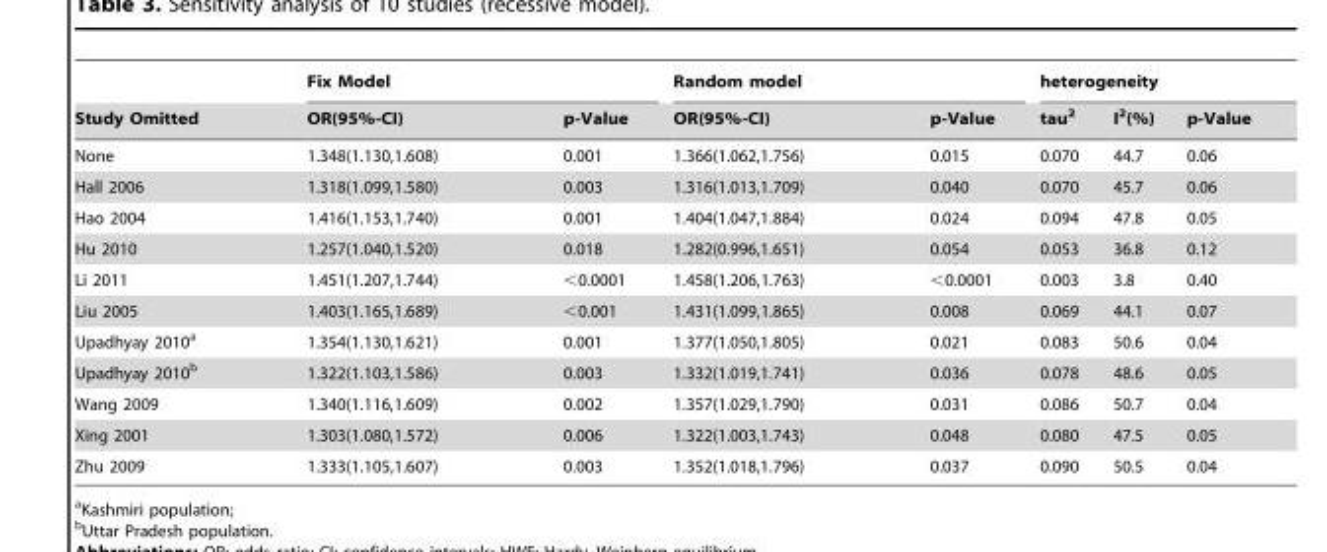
<table><thead><tr><td rowspan="2">Study Omitted</td><td colspan="2">Fix Model</td><td colspan="2">Random model</td><td colspan="3">heterogeneity</td></tr><tr><td>OR(95%-CI)</td><td>p-Value</td><td>OR(95%-CI)</td><td>p-Value</td><td>tau<sup>2</sup></td><td>I<sup>2</sup>(%)</td><td>p-Value</td></tr></thead><tbody><tr><td>None</td><td>1.348(1.130,1.608)</td><td>0.001</td><td>1.366(1.062,1.756)</td><td>0.015</td><td>0.070</td><td>44.7</td><td>0.06</td></tr><tr><td>Hall 2006</td><td>1.318(1.099,1.580)</td><td>0.003</td><td>1.316(1.013,1.709)</td><td>0.040</td><td>0.070</td><td>45.7</td><td>0.06</td></tr><tr><td>Hao 2004</td><td>1.416(1.153,1.740)</td><td>0.001</td><td>1.404(1.047,1.884)</td><td>0.024</td><td>0.094</td><td>47.8</td><td>0.05</td></tr><tr><td>Hu 2010</td><td>1.257(1.040,1.520)</td><td>0.018</td><td>1.282(0.996,1.651)</td><td>0.054</td><td>0.053</td><td>36.8</td><td>0.12</td></tr><tr><td>Li 2011</td><td>1.451(1.207,1.744)</td><td>&lt;0.0001</td><td>1.458(1.206,1.763)</td><td>&lt;0.0001</td><td>0.003</td><td>3.8</td><td>0.40</td></tr><tr><td>Liu 2005</td><td>1.403(1.165,1.689)</td><td>&lt;0.001</td><td>1.431(1.099,1.865)</td><td>0.008</td><td>0.069</td><td>44.1</td><td>0.07</td></tr><tr><td>Upadhyay 2010<sup>a</sup></td><td>1.354(1.130,1.621)</td><td>0.001</td><td>1.377(1.050,1.805)</td><td>0.021</td><td>0.083</td><td>50.6</td><td>0.04</td></tr><tr><td>Upadhyay 2010<sup>b</sup></td><td>1.322(1.103,1.586)</td><td>0.003</td><td>1.332(1.019,1.741)</td><td>0.036</td><td>0.078</td><td>48.6</td><td>0.05</td></tr><tr><td>Wang 2009</td><td>1.340(1.116,1.609)</td><td>0.002</td><td>1.357(1.029,1.790)</td><td>0.031</td><td>0.086</td><td>50.7</td><td>0.04</td></tr><tr><td>Xing 2001</td><td>1.303(1.080,1.572)</td><td>0.006</td><td>1.322(1.003,1.743)</td><td>0.048</td><td>0.080</td><td>47.5</td><td>0.05</td></tr><tr><td>Zhu 2009</td><td>1.333(1.105,1.607)</td><td>0.003</td><td>1.352(1.018,1.796)</td><td>0.037</td><td>0.090</td><td>50.5</td><td>0.04</td></tr></tbody></table>